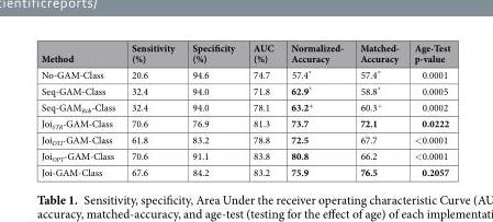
<table><thead><tr><td>Method</td><td>Sensitivity (%)</td><td>Specificity (%)</td><td>AUC (%)</td><td>Normalized- Accuracy</td><td>Matched- Accuracy</td><td>Age-Test p-value</td></tr></thead><tbody><tr><td>No-GAM-Class</td><td>20.6</td><td>94.6</td><td>74.7</td><td>57.4*</td><td>57.4*</td><td>0.0001</td></tr><tr><td>Seq-GAM-Class</td><td>32.4</td><td>94.0</td><td>71.8</td><td>62.9*</td><td>58.8*</td><td>0.0005</td></tr><tr><td>Seq-GAM<sub>Rob</sub>-Class</td><td>32.4</td><td>94.0</td><td>78.1</td><td>63.2<sup>+</sup></td><td>60.3<sup>+</sup></td><td>0.0002</td></tr><tr><td>Joi<sub>STR</sub>-GAM-Class</td><td>70.6</td><td>76.9</td><td>81.3</td><td>73.7</td><td>72.1</td><td>0.0222</td></tr><tr><td>Joi<sub>DTI</sub>-GAM-Class</td><td>61.8</td><td>83.2</td><td>78.8</td><td>72.5</td><td>67.7</td><td>&lt;0.0001</td></tr><tr><td>Joi<sub>OPT</sub>-GAM-Class</td><td>70.6</td><td>91.1</td><td>83.8</td><td>80.8</td><td>66.2</td><td>&lt;0.0001</td></tr><tr><td>Joi-GAM-Class</td><td>67.6</td><td>84.2</td><td>83.2</td><td>75.9</td><td>76.5</td><td>0.2057</td></tr></tbody></table>